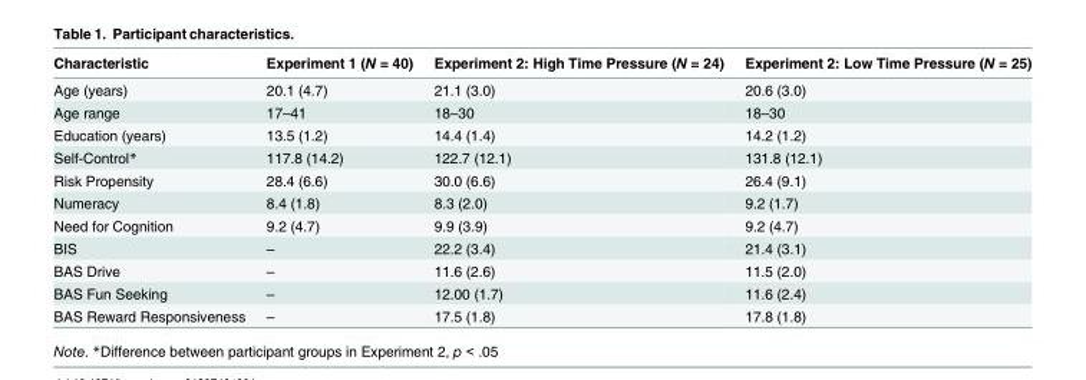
<table><thead><tr><td>Characteristic</td><td>Experiment 1 (N = 40)</td><td>Experiment 2: High Time Pressure (N = 24)</td><td>Experiment 2: Low Time Pressure (N = 25)</td></tr></thead><tbody><tr><td>Age (years)</td><td>20.1 (4.7)</td><td>21.1 (3.0)</td><td>20.6 (3.0)</td></tr><tr><td>Age range</td><td>17–41</td><td>18–30</td><td>18–30</td></tr><tr><td>Education (years)</td><td>13.5 (1.2)</td><td>14.4 (1.4)</td><td>14.2 (1.2)</td></tr><tr><td>Self-Control*</td><td>117.8 (14.2)</td><td>122.7 (12.1)</td><td>131.8 (12.1)</td></tr><tr><td>Risk Propensity</td><td>28.4 (6.6)</td><td>30.0 (6.6)</td><td>26.4 (9.1)</td></tr><tr><td>Numeracy</td><td>8.4 (1.8)</td><td>8.3 (2.0)</td><td>9.2 (1.7)</td></tr><tr><td>Need for Cognition</td><td>9.2 (4.7)</td><td>9.9 (3.9)</td><td>9.2 (4.7)</td></tr><tr><td>BIS</td><td>–</td><td>22.2 (3.4)</td><td>21.4 (3.1)</td></tr><tr><td>BAS Drive</td><td>–</td><td>11.6 (2.6)</td><td>11.5 (2.0)</td></tr><tr><td>BAS Fun Seeking</td><td>–</td><td>12.00 (1.7)</td><td>11.6 (2.4)</td></tr><tr><td>BAS Reward Responsiveness</td><td>–</td><td>17.5 (1.8)</td><td>17.8 (1.8)</td></tr></tbody></table>